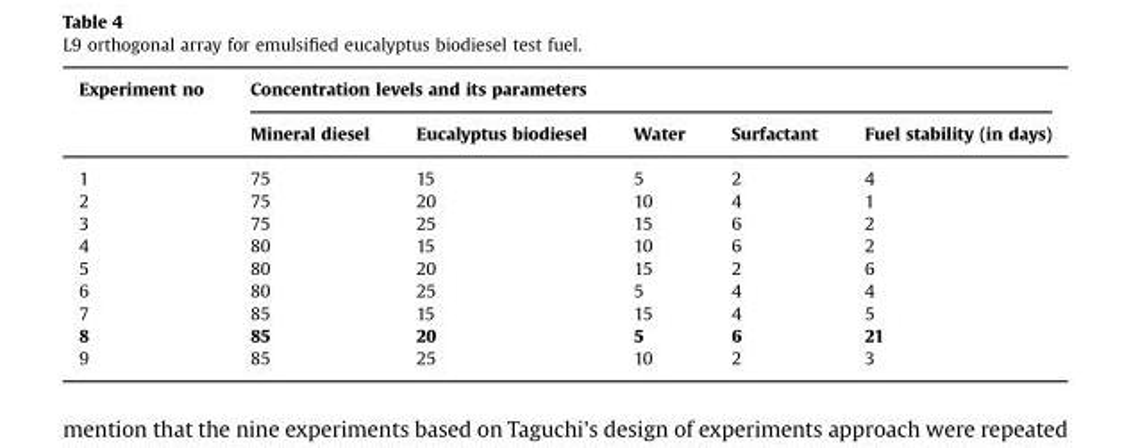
<table><thead><tr><td rowspan="2">Experiment no</td><td colspan="5">Concentration levels and its parameters</td></tr><tr><td>Mineral diesel</td><td>Eucalyptus biodiesel</td><td>Water</td><td>Surfactant</td><td>Fuel stability (in days)</td></tr></thead><tbody><tr><td>1</td><td>75</td><td>15</td><td>5</td><td>2</td><td>4</td></tr><tr><td>2</td><td>75</td><td>20</td><td>10</td><td>4</td><td>1</td></tr><tr><td>3</td><td>75</td><td>25</td><td>15</td><td>6</td><td>2</td></tr><tr><td>4</td><td>80</td><td>15</td><td>10</td><td>6</td><td>2</td></tr><tr><td>5</td><td>80</td><td>20</td><td>15</td><td>2</td><td>6</td></tr><tr><td>6</td><td>80</td><td>25</td><td>5</td><td>4</td><td>4</td></tr><tr><td>7</td><td>85</td><td>15</td><td>15</td><td>4</td><td>5</td></tr><tr><td>8</td><td>85</td><td>20</td><td>5</td><td>6</td><td>21</td></tr><tr><td>9</td><td>85</td><td>25</td><td>10</td><td>2</td><td>3</td></tr></tbody></table>